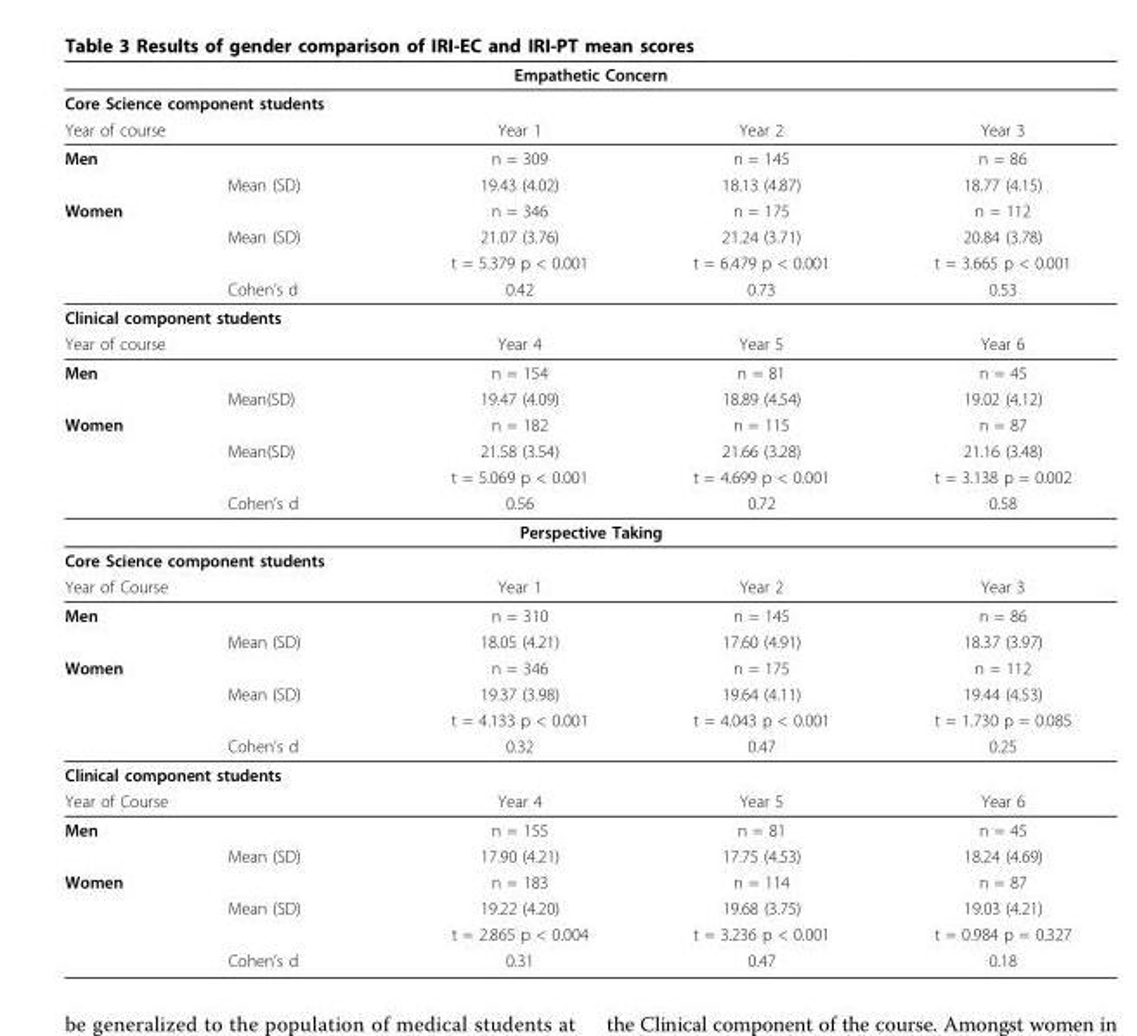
<table><thead><tr><td rowspan="2" colspan="5">Empathetic Concern Core Science component students</td></tr><tr></tr><tr><td colspan="2">Year of course</td><td rowspan="2">Year 1 n = 309</td><td rowspan="2">Year 2 n = 145</td><td rowspan="2">Year 3 n = 86</td></tr><tr><td>Men</td><td></td></tr></thead><tbody><tr><td></td><td>Mean (SD)</td><td>19.43 (4.02)</td><td>18.13 (4.87)</td><td>18.77 (4.15)</td></tr><tr><td rowspan="4">Women</td><td></td><td>n = 346</td><td>n = 175</td><td>n = 112</td></tr><tr><td>Mean (SD)</td><td>21.07 (3.76)</td><td>21.24 (3.71)</td><td>20.84 (3.78)</td></tr><tr><td></td><td>t = 5.379 p &lt; 0.001</td><td>t = 6.479 p &lt; 0.001</td><td>t = 3.665 p &lt; 0.001</td></tr><tr><td>Cohen’s d</td><td>0.42</td><td>0.73</td><td>0.53</td></tr><tr><td colspan="5">Clinical component students</td></tr><tr><td colspan="2">Year of course</td><td>Year 4</td><td>Year 5</td><td>Year 6</td></tr><tr><td rowspan="2">Men</td><td></td><td>n = 154</td><td>n = 81</td><td>n = 45</td></tr><tr><td>Mean(SD)</td><td>19.47 (4.09)</td><td>18.89 (4.54)</td><td>19.02 (4.12)</td></tr><tr><td rowspan="4">Women</td><td></td><td>n = 182</td><td>n = 115</td><td>n = 87</td></tr><tr><td>Mean(SD)</td><td>21.58 (3.54)</td><td>21.66 (3.28)</td><td>21.16 (3.48)</td></tr><tr><td></td><td>t = 5.069 p &lt; 0.001</td><td>t = 4.699 p &lt; 0.001</td><td>t = 3.138 p = 0.002</td></tr><tr><td>Cohen’s d</td><td>0.56</td><td>0.72</td><td>0.58</td></tr><tr><td colspan="5">Perspective Taking</td></tr><tr><td colspan="5">Core Science component students</td></tr><tr><td colspan="2">Year of Course</td><td>Year 1</td><td>Year 2</td><td>Year 3</td></tr><tr><td rowspan="2">Men</td><td></td><td>n = 310</td><td>n = 145</td><td>n = 86</td></tr><tr><td>Mean (SD)</td><td>18.05 (4.21)</td><td>17.60 (4.91)</td><td>18.37 (3.97)</td></tr><tr><td rowspan="4">Women</td><td></td><td>n = 346</td><td>n = 175</td><td>n = 112</td></tr><tr><td>Mean (SD)</td><td>19.37 (3.98)</td><td>19.64 (4.11)</td><td>19.44 (4.53)</td></tr><tr><td></td><td>t = 4.133 p &lt; 0.001</td><td>t = 4.043 p &lt; 0.001</td><td>t = 1.730 p = 0.085</td></tr><tr><td>Cohen’s d</td><td>0.32</td><td>0.47</td><td>0.25</td></tr><tr><td colspan="5">Clinical component students</td></tr><tr><td colspan="2">Year of Course</td><td>Year 4</td><td>Year 5</td><td>Year 6</td></tr><tr><td rowspan="2">Men</td><td></td><td>n = 155</td><td>n = 81</td><td>n = 45</td></tr><tr><td>Mean (SD)</td><td>17.90 (4.21)</td><td>17.75 (4.53)</td><td>18.24 (4.69)</td></tr><tr><td rowspan="4">Women</td><td></td><td>n = 183</td><td>n = 114</td><td>n = 87</td></tr><tr><td>Mean (SD)</td><td>19.22 (4.20)</td><td>19.68 (3.75)</td><td>19.03 (4.21)</td></tr><tr><td></td><td>t = 2.865 p &lt; 0.004</td><td>t = 3.236 p &lt; 0.001</td><td>t = 0.984 p = 0.327</td></tr><tr><td>Cohen’s d</td><td>0.31</td><td>0.47</td><td>0.18</td></tr></tbody></table>